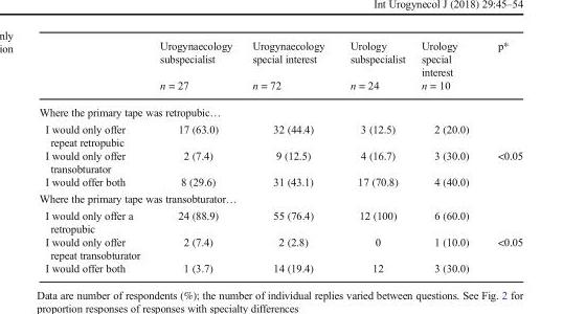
<table><thead><tr><td rowspan="2"></td><td rowspan="2">Urogynaecology subspecialist n = 27</td><td rowspan="2">Urogynaecology special interest n = 72</td><td rowspan="2">Urology subspecialist n = 24</td><td rowspan="2">Urology special interest n = 10</td><td rowspan="2">p*</td></tr><tr></tr></thead><tbody><tr><td colspan="6">Where the primary tape was retropubic…</td></tr><tr><td>I would only offer repeat retropubic</td><td>17 (63.0)</td><td>32 (44.4)</td><td>3 (12.5)</td><td>2 (20.0)</td><td></td></tr><tr><td>I would only offer transobturator</td><td>2 (7.4)</td><td>9 (12.5)</td><td>4 (16.7)</td><td>3 (30.0)</td><td>&lt;0.05</td></tr><tr><td>I would offer both</td><td>8 (29.6)</td><td>31 (43.1)</td><td>17 (70.8)</td><td>4 (40.0)</td><td></td></tr><tr><td colspan="6">Where the primary tape was transobturator…</td></tr><tr><td>I would only offer a retropubic</td><td>24 (88.9)</td><td>55 (76.4)</td><td>12 (100)</td><td>6 (60.0)</td><td></td></tr><tr><td>I would only offer repeat transobturator</td><td>2 (7.4)</td><td>2 (2.8)</td><td>0</td><td>1 (10.0)</td><td>&lt;0.05</td></tr><tr><td>I would offer both</td><td>1 (3.7)</td><td>14 (19.4)</td><td>12</td><td>3 (30.0)</td><td></td></tr></tbody></table>